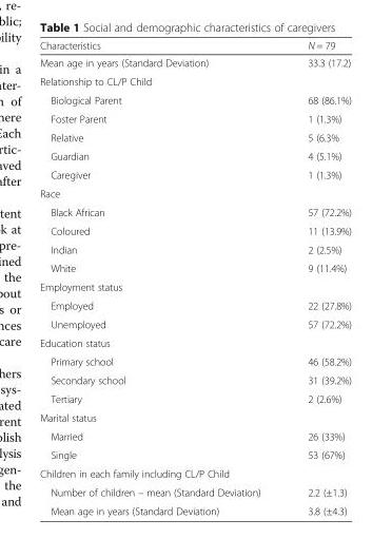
<table><thead><tr><td>Characteristics</td><td>N = 79</td></tr></thead><tbody><tr><td>Mean age in years (Standard Deviation)</td><td>33.3 (17.2)</td></tr><tr><td colspan="2">Relationship to CL/P Child</td></tr><tr><td>Biological Parent</td><td>68 (86.1%)</td></tr><tr><td>Foster Parent</td><td>1 (1.3%)</td></tr><tr><td>Relative</td><td>5 (6.3%</td></tr><tr><td>Guardian</td><td>4 (5.1%)</td></tr><tr><td>Caregiver</td><td>1 (1.3%)</td></tr><tr><td colspan="2">Race</td></tr><tr><td>Black African</td><td>57 (72.2%)</td></tr><tr><td>Coloured</td><td>11 (13.9%)</td></tr><tr><td>Indian</td><td>2 (2.5%)</td></tr><tr><td>White</td><td>9 (11.4%)</td></tr><tr><td colspan="2">Employment status</td></tr><tr><td>Employed</td><td>22 (27.8%)</td></tr><tr><td>Unemployed</td><td>57 (72.2%)</td></tr><tr><td colspan="2">Education status</td></tr><tr><td>Primary school</td><td>46 (58.2%)</td></tr><tr><td>Secondary school</td><td>31 (39.2%)</td></tr><tr><td>Tertiary</td><td>2 (2.6%)</td></tr><tr><td colspan="2">Marital status</td></tr><tr><td>Married</td><td>26 (33%)</td></tr><tr><td>Single</td><td>53 (67%)</td></tr><tr><td colspan="2">Children in each family including CL/P Child</td></tr><tr><td>Number of children – mean (Standard Deviation)</td><td>2.2 (±1.3)</td></tr><tr><td>Mean age in years (Standard Deviation)</td><td>3.8 (±4.3)</td></tr></tbody></table>